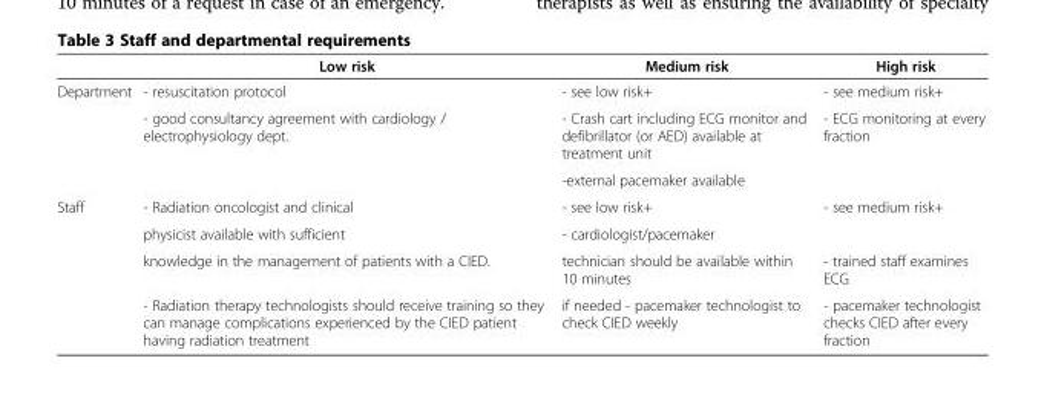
<table><thead><tr><td></td><td>Low risk</td><td>Medium risk</td><td>High risk</td></tr></thead><tbody><tr><td rowspan="3">Department</td><td>- resuscitation protocol</td><td>- see low risk+</td><td>- see medium risk+</td></tr><tr><td rowspan="2">- good consultancy agreement with cardiology / electrophysiology dept.</td><td>- Crash cart including ECG monitor and defibrillator (or AED) available at treatment unit</td><td rowspan="2">- ECG monitoring at every fraction</td></tr><tr><td>-external pacemaker available</td></tr><tr><td rowspan="4">Staff</td><td>- Radiation oncologist and clinical</td><td>- see low risk+</td><td>- see medium risk+</td></tr><tr><td>physicist available with sufficient</td><td>- cardiologist/pacemaker</td><td></td></tr><tr><td>knowledge in the management of patients with a CIED.</td><td>technician should be available within 10 minutes</td><td>- trained staff examines ECG</td></tr><tr><td>- Radiation therapy technologists should receive training so they can manage complications experienced by the CIED patient having radiation treatment</td><td>if needed - pacemaker technologist to check CIED weekly</td><td>- pacemaker technologist checks CIED after every fraction</td></tr></tbody></table>